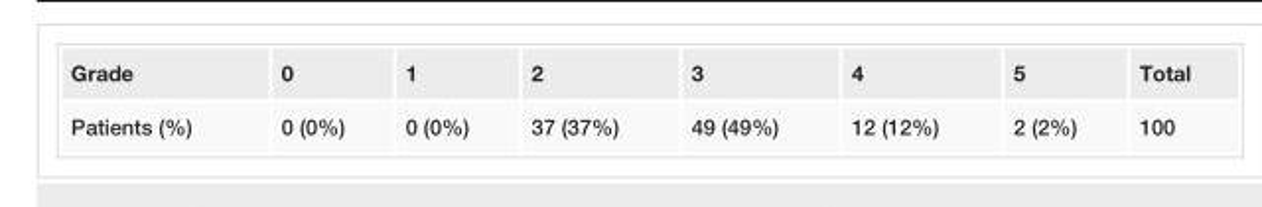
<table><tbody><tr><td>Grade</td><td>0</td><td>1</td><td>2</td><td>3</td><td>4</td><td>5</td><td>Total</td></tr><tr><td>Patients (%)</td><td>0 (0%)</td><td>0 (0%)</td><td>37 (37%)</td><td>49 (49%)</td><td>12 (12%)</td><td>2 (2%)</td><td>100</td></tr></tbody></table>